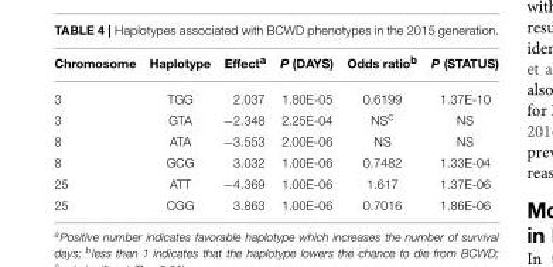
<table><thead><tr><td>Chromosome</td><td>Haplotype</td><td>Effect<sup>a</sup></td><td>P (DAYS)</td><td>Odds ratio<sup>b</sup></td><td>P (STATUS)</td></tr></thead><tbody><tr><td>3</td><td>TGG</td><td>2.037</td><td>1.80E-05</td><td>0.6199</td><td>1.37E-10</td></tr><tr><td>3</td><td>GTA</td><td>−2.348</td><td>2.25E-04</td><td>NS<sup>c</sup></td><td>NS</td></tr><tr><td>8</td><td>ATA</td><td>−3.553</td><td>2.00E-06</td><td>NS</td><td>NS</td></tr><tr><td>8</td><td>GCG</td><td>3.032</td><td>1.00E-06</td><td>0.7482</td><td>1.33E-04</td></tr><tr><td>25</td><td>ATT</td><td>−4.369</td><td>1.00E-06</td><td>1.617</td><td>1.37E-06</td></tr><tr><td>25</td><td>CGG</td><td>3.863</td><td>1.00E-06</td><td>0.7016</td><td>1.86E-06</td></tr></tbody></table>